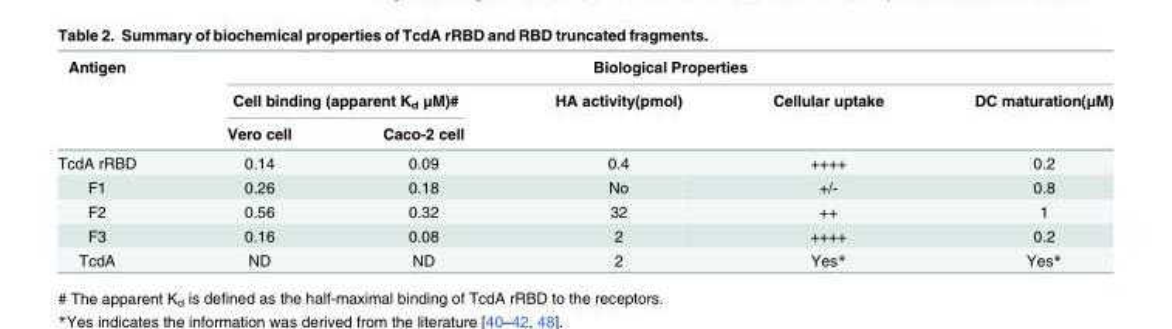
<table><thead><tr><td rowspan="3">Antigen</td><td colspan="5">Biological Properties</td></tr><tr><td colspan="2">Cell binding (apparent K<sub>d</sub> μM)#</td><td rowspan="2">HA activity(pmol)</td><td rowspan="2">Cellular uptake</td><td rowspan="2">DC maturation(μM)</td></tr><tr><td>Vero cell</td><td>Caco-2 cell</td></tr></thead><tbody><tr><td>TcdA rRBD</td><td>0.14</td><td>0.09</td><td>0.4</td><td>++++</td><td>0.2</td></tr><tr><td>F1</td><td>0.26</td><td>0.18</td><td>No</td><td>+/-</td><td>0.8</td></tr><tr><td>F2</td><td>0.56</td><td>0.32</td><td>32</td><td>++</td><td>1</td></tr><tr><td>F3</td><td>0.16</td><td>0.08</td><td>2</td><td>++++</td><td>0.2</td></tr><tr><td>TcdA</td><td>ND</td><td>ND</td><td>2</td><td>Yes*</td><td>Yes*</td></tr></tbody></table>